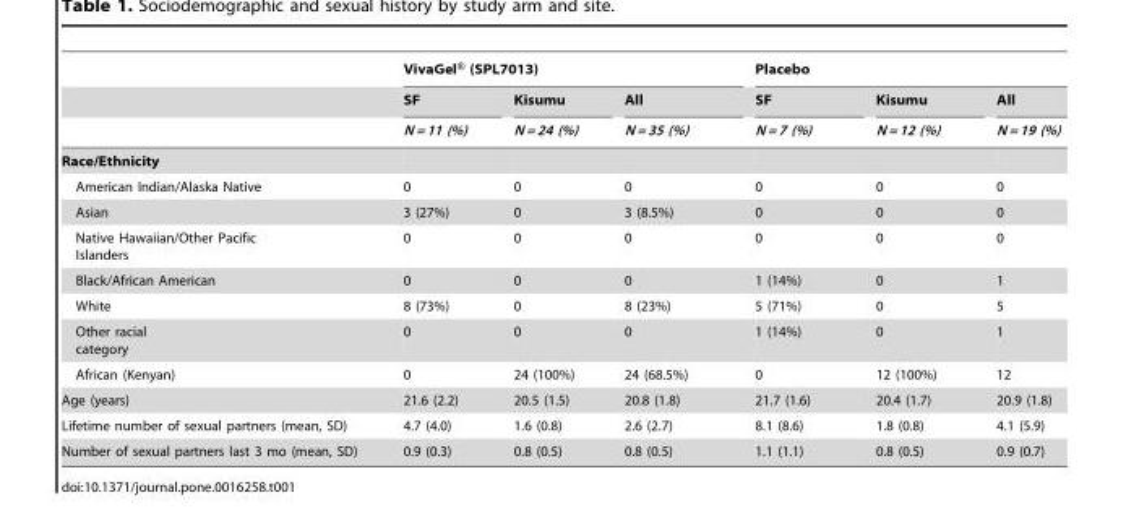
<table><thead><tr><td rowspan="3"></td><td colspan="3">VivaGel® (SPL7013)</td><td colspan="3">Placebo</td></tr><tr><td rowspan="2">SF N = 11 (%)</td><td rowspan="2">Kisumu N = 24 (%)</td><td rowspan="2">All N = 35 (%)</td><td rowspan="2">SF N = 7 (%)</td><td rowspan="2">Kisumu N = 12 (%)</td><td rowspan="2">All N = 19 (%)</td></tr><tr></tr></thead><tbody><tr><td colspan="7">Race/Ethnicity</td></tr><tr><td>American Indian/Alaska Native</td><td>0</td><td>0</td><td>0</td><td>0</td><td>0</td><td>0</td></tr><tr><td>Asian</td><td>3 (27%)</td><td>0</td><td>3 (8.5%)</td><td>0</td><td>0</td><td>0</td></tr><tr><td>Native Hawaiian/Other Pacific Islanders</td><td>0</td><td>0</td><td>0</td><td>0</td><td>0</td><td>0</td></tr><tr><td>Black/African American</td><td>0</td><td>0</td><td>0</td><td>1 (14%)</td><td>0</td><td>1</td></tr><tr><td>White</td><td>8 (73%)</td><td>0</td><td>8 (23%)</td><td>5 (71%)</td><td>0</td><td>5</td></tr><tr><td>Other racial category</td><td>0</td><td>0</td><td>0</td><td>1 (14%)</td><td>0</td><td>1</td></tr><tr><td>African (Kenyan)</td><td>0</td><td>24 (100%)</td><td>24 (68.5%)</td><td>0</td><td>12 (100%)</td><td>12</td></tr><tr><td>Age (years)</td><td>21.6 (2.2)</td><td>20.5 (1.5)</td><td>20.8 (1.8)</td><td>21.7 (1.6)</td><td>20.4 (1.7)</td><td>20.9 (1.8)</td></tr><tr><td>Lifetime number of sexual partners (mean, SD)</td><td>4.7 (4.0)</td><td>1.6 (0.8)</td><td>2.6 (2.7)</td><td>8.1 (8.6)</td><td>1.8 (0.8)</td><td>4.1 (5.9)</td></tr><tr><td>Number of sexual partners last 3 mo (mean, SD)</td><td>0.9 (0.3)</td><td>0.8 (0.5)</td><td>0.8 (0.5)</td><td>1.1 (1.1)</td><td>0.8 (0.5)</td><td>0.9 (0.7)</td></tr></tbody></table>